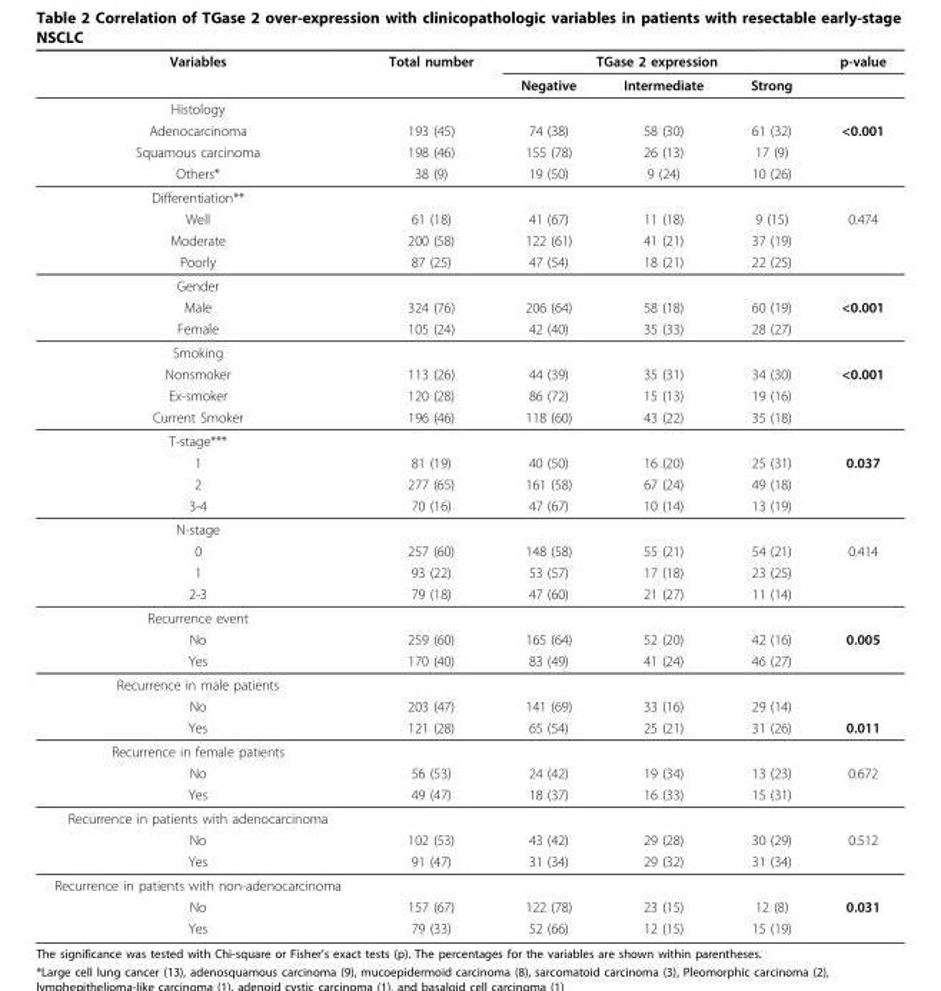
<table><thead><tr><td rowspan="2">Variables</td><td rowspan="2">Total number</td><td colspan="3">TGase 2 expression</td><td rowspan="2">p-value</td></tr><tr><td>Negative</td><td>Intermediate</td><td>Strong</td></tr></thead><tbody><tr><td colspan="6">Histology</td></tr><tr><td>Adenocarcinoma</td><td>193 (45)</td><td>74 (38)</td><td>58 (30)</td><td>61 (32)</td><td>&lt;0.001</td></tr><tr><td>Squamous carcinoma</td><td>198 (46)</td><td>155 (78)</td><td>26 (13)</td><td>17 (9)</td><td></td></tr><tr><td>Others*</td><td>38 (9)</td><td>19 (50)</td><td>9 (24)</td><td>10 (26)</td><td></td></tr><tr><td colspan="6">Differentiation**</td></tr><tr><td>Well</td><td>61 (18)</td><td>41 (67)</td><td>11 (18)</td><td>9 (15)</td><td>0.474</td></tr><tr><td>Moderate</td><td>200 (58)</td><td>122 (61)</td><td>41 (21)</td><td>37 (19)</td><td></td></tr><tr><td>Poorly</td><td>87 (25)</td><td>47 (54)</td><td>18 (21)</td><td>22 (25)</td><td></td></tr><tr><td colspan="6">Gender</td></tr><tr><td>Male</td><td>324 (76)</td><td>206 (64)</td><td>58 (18)</td><td>60 (19)</td><td>&lt;0.001</td></tr><tr><td>Female</td><td>105 (24)</td><td>42 (40)</td><td>35 (33)</td><td>28 (27)</td><td></td></tr><tr><td colspan="6">Smoking</td></tr><tr><td>Nonsmoker</td><td>113 (26)</td><td>44 (39)</td><td>35 (31)</td><td>34 (30)</td><td>&lt;0.001</td></tr><tr><td>Ex-smoker</td><td>120 (28)</td><td>86 (72)</td><td>15 (13)</td><td>19 (16)</td><td></td></tr><tr><td>Current Smoker</td><td>196 (46)</td><td>118 (60)</td><td>43 (22)</td><td>35 (18)</td><td></td></tr><tr><td colspan="6">T-stage***</td></tr><tr><td>1</td><td>81 (19)</td><td>40 (50)</td><td>16 (20)</td><td>25 (31)</td><td>0.037</td></tr><tr><td>2</td><td>277 (65)</td><td>161 (58)</td><td>67 (24)</td><td>49 (18)</td><td></td></tr><tr><td>3-4</td><td>70 (16)</td><td>47 (67)</td><td>10 (14)</td><td>13 (19)</td><td></td></tr><tr><td colspan="6">N-stage</td></tr><tr><td>0</td><td>257 (60)</td><td>148 (58)</td><td>55 (21)</td><td>54 (21)</td><td>0.414</td></tr><tr><td>1</td><td>93 (22)</td><td>53 (57)</td><td>17 (18)</td><td>23 (25)</td><td></td></tr><tr><td>2-3</td><td>79 (18)</td><td>47 (60)</td><td>21 (27)</td><td>11 (14)</td><td></td></tr><tr><td colspan="6">Recurrence event</td></tr><tr><td>No</td><td>259 (60)</td><td>165 (64)</td><td>52 (20)</td><td>42 (16)</td><td>0.005</td></tr><tr><td>Yes</td><td>170 (40)</td><td>83 (49)</td><td>41 (24)</td><td>46 (27)</td><td></td></tr><tr><td colspan="6">Recurrence in male patients</td></tr><tr><td>No</td><td>203 (47)</td><td>141 (69)</td><td>33 (16)</td><td>29 (14)</td><td></td></tr><tr><td>Yes</td><td>121 (28)</td><td>65 (54)</td><td>25 (21)</td><td>31 (26)</td><td>0.011</td></tr><tr><td colspan="6">Recurrence in female patients</td></tr><tr><td>No</td><td>56 (53)</td><td>24 (42)</td><td>19 (34)</td><td>13 (23)</td><td>0.672</td></tr><tr><td>Yes</td><td>49 (47)</td><td>18 (37)</td><td>16 (33)</td><td>15 (31)</td><td></td></tr><tr><td colspan="6">Recurrence in patients with adenocarcinoma</td></tr><tr><td>No</td><td>102 (53)</td><td>43 (42)</td><td>29 (28)</td><td>30 (29)</td><td>0.512</td></tr><tr><td>Yes</td><td>91 (47)</td><td>31 (34)</td><td>29 (32)</td><td>31 (34)</td><td></td></tr><tr><td colspan="6">Recurrence in patients with non-adenocarcinoma</td></tr><tr><td>No</td><td>157 (67)</td><td>122 (78)</td><td>23 (15)</td><td>12 (8)</td><td>0.031</td></tr><tr><td>Yes</td><td>79 (33)</td><td>52 (66)</td><td>12 (15)</td><td>15 (19)</td><td></td></tr></tbody></table>